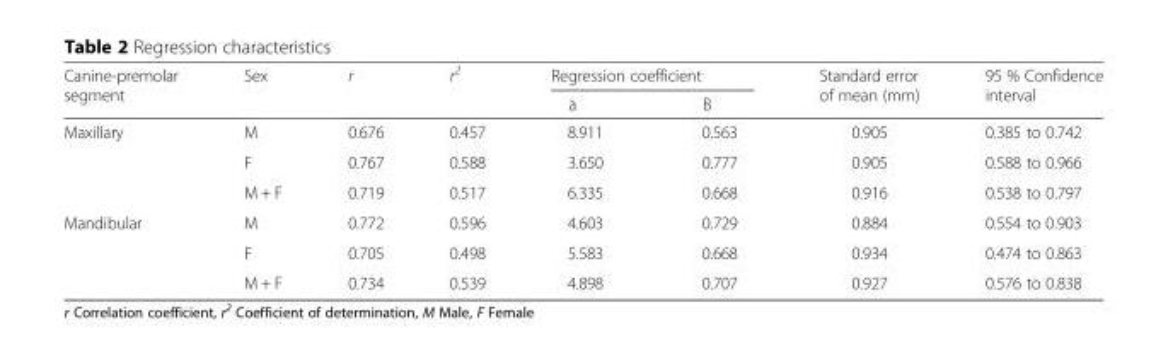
<table><thead><tr><td rowspan="2">Canine-premolar segment</td><td rowspan="2">Sex</td><td rowspan="2">r</td><td rowspan="2">r<sup>2</sup></td><td colspan="2">Regression coefficient</td><td rowspan="2">Standard error of mean (mm)</td><td rowspan="2">95 % Confidence interval</td></tr><tr><td>a</td><td>B</td></tr></thead><tbody><tr><td rowspan="3">Maxillary</td><td>M</td><td>0.676</td><td>0.457</td><td>8.911</td><td>0.563</td><td>0.905</td><td>0.385 to 0.742</td></tr><tr><td>F</td><td>0.767</td><td>0.588</td><td>3.650</td><td>0.777</td><td>0.905</td><td>0.588 to 0.966</td></tr><tr><td>M + F</td><td>0.719</td><td>0.517</td><td>6.335</td><td>0.668</td><td>0.916</td><td>0.538 to 0.797</td></tr><tr><td rowspan="3">Mandibular</td><td>M</td><td>0.772</td><td>0.596</td><td>4.603</td><td>0.729</td><td>0.884</td><td>0.554 to 0.903</td></tr><tr><td>F</td><td>0.705</td><td>0.498</td><td>5.583</td><td>0.668</td><td>0.934</td><td>0.474 to 0.863</td></tr><tr><td>M + F</td><td>0.734</td><td>0.539</td><td>4.898</td><td>0.707</td><td>0.927</td><td>0.576 to 0.838</td></tr></tbody></table>